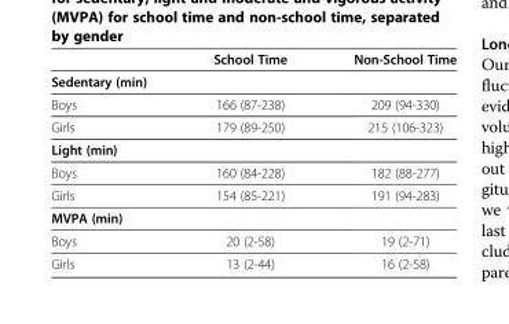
<table><thead><tr><td></td><td>School Time</td><td>Non-School Time</td></tr></thead><tbody><tr><td colspan="3">Sedentary (min)</td></tr><tr><td>Boys</td><td>166 (87-238)</td><td>209 (94-330)</td></tr><tr><td>Girls</td><td>179 (89-250)</td><td>215 (106-323)</td></tr><tr><td colspan="3">Light (min)</td></tr><tr><td>Boys</td><td>160 (84-228)</td><td>182 (88-277)</td></tr><tr><td>Girls</td><td>154 (85-221)</td><td>191 (94-283)</td></tr><tr><td colspan="3">MVPA (min)</td></tr><tr><td>Boys</td><td>20 (2-58)</td><td>19 (2-71)</td></tr><tr><td>Girls</td><td>13 (2-44)</td><td>16 (2-58)</td></tr></tbody></table>